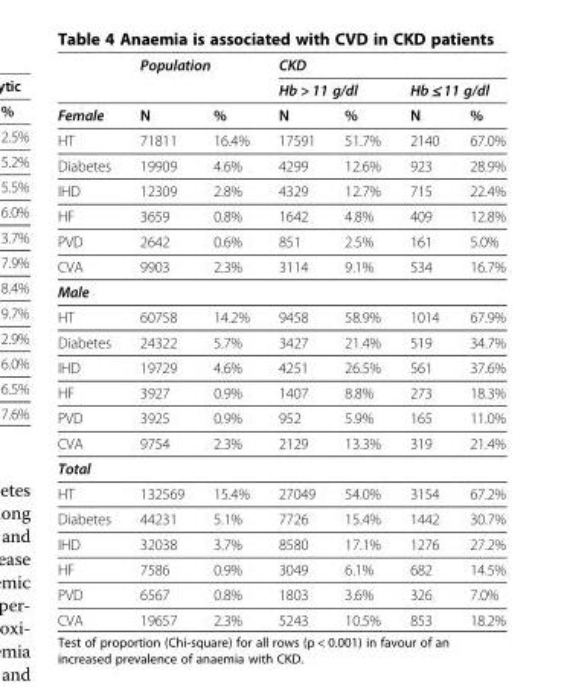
<table><thead><tr><td rowspan="3">Female</td><td colspan="2">Population</td><td colspan="4">CKD</td></tr><tr><td rowspan="2">N</td><td rowspan="2">%</td><td colspan="2">Hb &gt; 11 g/dl</td><td colspan="2">Hb ≤ 11 g/dl</td></tr><tr><td>N</td><td>%</td><td>N</td><td>%</td></tr></thead><tbody><tr><td>HT</td><td>71811</td><td>16.4%</td><td>17591</td><td>51.7%</td><td>2140</td><td>67.0%</td></tr><tr><td>Diabetes</td><td>19909</td><td>4.6%</td><td>4299</td><td>12.6%</td><td>923</td><td>28.9%</td></tr><tr><td>IHD</td><td>12309</td><td>2.8%</td><td>4329</td><td>12.7%</td><td>715</td><td>22.4%</td></tr><tr><td>HF</td><td>3659</td><td>0.8%</td><td>1642</td><td>4.8%</td><td>409</td><td>12.8%</td></tr><tr><td>PVD</td><td>2642</td><td>0.6%</td><td>851</td><td>2.5%</td><td>161</td><td>5.0%</td></tr><tr><td>CVA</td><td>9903</td><td>2.3%</td><td>3114</td><td>9.1%</td><td>534</td><td>16.7%</td></tr><tr><td colspan="7">Male</td></tr><tr><td>HT</td><td>60758</td><td>14.2%</td><td>9458</td><td>58.9%</td><td>1014</td><td>67.9%</td></tr><tr><td>Diabetes</td><td>24322</td><td>5.7%</td><td>3427</td><td>21.4%</td><td>519</td><td>34.7%</td></tr><tr><td>IHD</td><td>19729</td><td>4.6%</td><td>4251</td><td>26.5%</td><td>561</td><td>37.6%</td></tr><tr><td>HF</td><td>3927</td><td>0.9%</td><td>1407</td><td>8.8%</td><td>273</td><td>18.3%</td></tr><tr><td>PVD</td><td>3925</td><td>0.9%</td><td>952</td><td>5.9%</td><td>165</td><td>11.0%</td></tr><tr><td>CVA</td><td>9754</td><td>2.3%</td><td>2129</td><td>13.3%</td><td>319</td><td>21.4%</td></tr><tr><td colspan="7">Total</td></tr><tr><td>HT</td><td>132569</td><td>15.4%</td><td>27049</td><td>54.0%</td><td>3154</td><td>67.2%</td></tr><tr><td>Diabetes</td><td>44231</td><td>5.1%</td><td>7726</td><td>15.4%</td><td>1442</td><td>30.7%</td></tr><tr><td>IHD</td><td>32038</td><td>3.7%</td><td>8580</td><td>17.1%</td><td>1276</td><td>27.2%</td></tr><tr><td>HF</td><td>7586</td><td>0.9%</td><td>3049</td><td>6.1%</td><td>682</td><td>14.5%</td></tr><tr><td>PVD</td><td>6567</td><td>0.8%</td><td>1803</td><td>3.6%</td><td>326</td><td>7.0%</td></tr><tr><td>CVA</td><td>19657</td><td>2.3%</td><td>5243</td><td>10.5%</td><td>853</td><td>18.2%</td></tr></tbody></table>